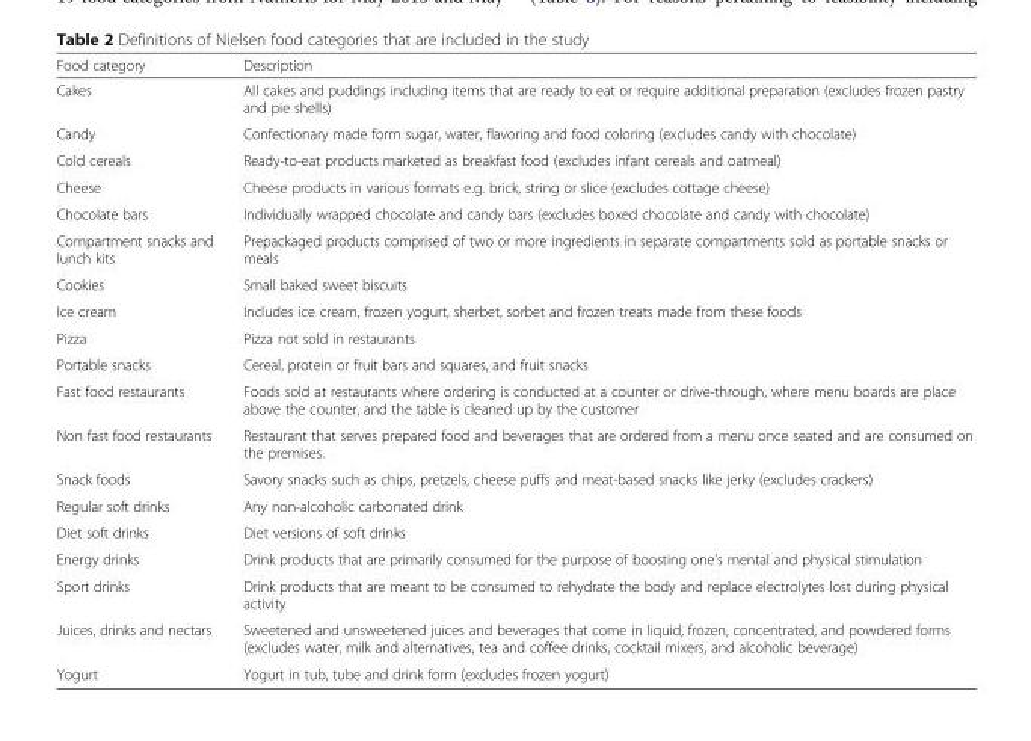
<table><thead><tr><td>Food category</td><td>Description</td></tr></thead><tbody><tr><td>Cakes</td><td>All cakes and puddings including items that are ready to eat or require additional preparation (excludes frozen pastry and pie shells)</td></tr><tr><td>Candy</td><td>Confectionary made form sugar, water, flavoring and food coloring (excludes candy with chocolate)</td></tr><tr><td>Cold cereals</td><td>Ready-to-eat products marketed as breakfast food (excludes infant cereals and oatmeal)</td></tr><tr><td>Cheese</td><td>Cheese products in various formats e.g. brick, string or slice (excludes cottage cheese)</td></tr><tr><td>Chocolate bars</td><td>Individually wrapped chocolate and candy bars (excludes boxed chocolate and candy with chocolate)</td></tr><tr><td>Compartment snacks and lunch kits</td><td>Prepackaged products comprised of two or more ingredients in separate compartments sold as portable snacks or meals</td></tr><tr><td>Cookies</td><td>Small baked sweet biscuits</td></tr><tr><td>Ice cream</td><td>Includes ice cream, frozen yogurt, sherbet, sorbet and frozen treats made from these foods</td></tr><tr><td>Pizza</td><td>Pizza not sold in restaurants</td></tr><tr><td>Portable snacks</td><td>Cereal, protein or fruit bars and squares, and fruit snacks</td></tr><tr><td>Fast food restaurants</td><td>Foods sold at restaurants where ordering is conducted at a counter or drive-through, where menu boards are place above the counter, and the table is cleaned up by the customer</td></tr><tr><td>Non fast food restaurants</td><td>Restaurant that serves prepared food and beverages that are ordered from a menu once seated and are consumed on the premises.</td></tr><tr><td>Snack foods</td><td>Savory snacks such as chips, pretzels, cheese puffs and meat-based snacks like jerky (excludes crackers)</td></tr><tr><td>Regular soft drinks</td><td>Any non-alcoholic carbonated drink</td></tr><tr><td>Diet soft drinks</td><td>Diet versions of soft drinks</td></tr><tr><td>Energy drinks</td><td>Drink products that are primarily consumed for the purpose of boosting one’s mental and physical stimulation</td></tr><tr><td>Sport drinks</td><td>Drink products that are meant to be consumed to rehydrate the body and replace electrolytes lost during physical activity</td></tr><tr><td>Juices, drinks and nectars</td><td>Sweetened and unsweetened juices and beverages that come in liquid, frozen, concentrated, and powdered forms (excludes water, milk and alternatives, tea and coffee drinks, cocktail mixers, and alcoholic beverage)</td></tr><tr><td>Yogurt</td><td>Yogurt in tub, tube and drink form (excludes frozen yogurt)</td></tr></tbody></table>